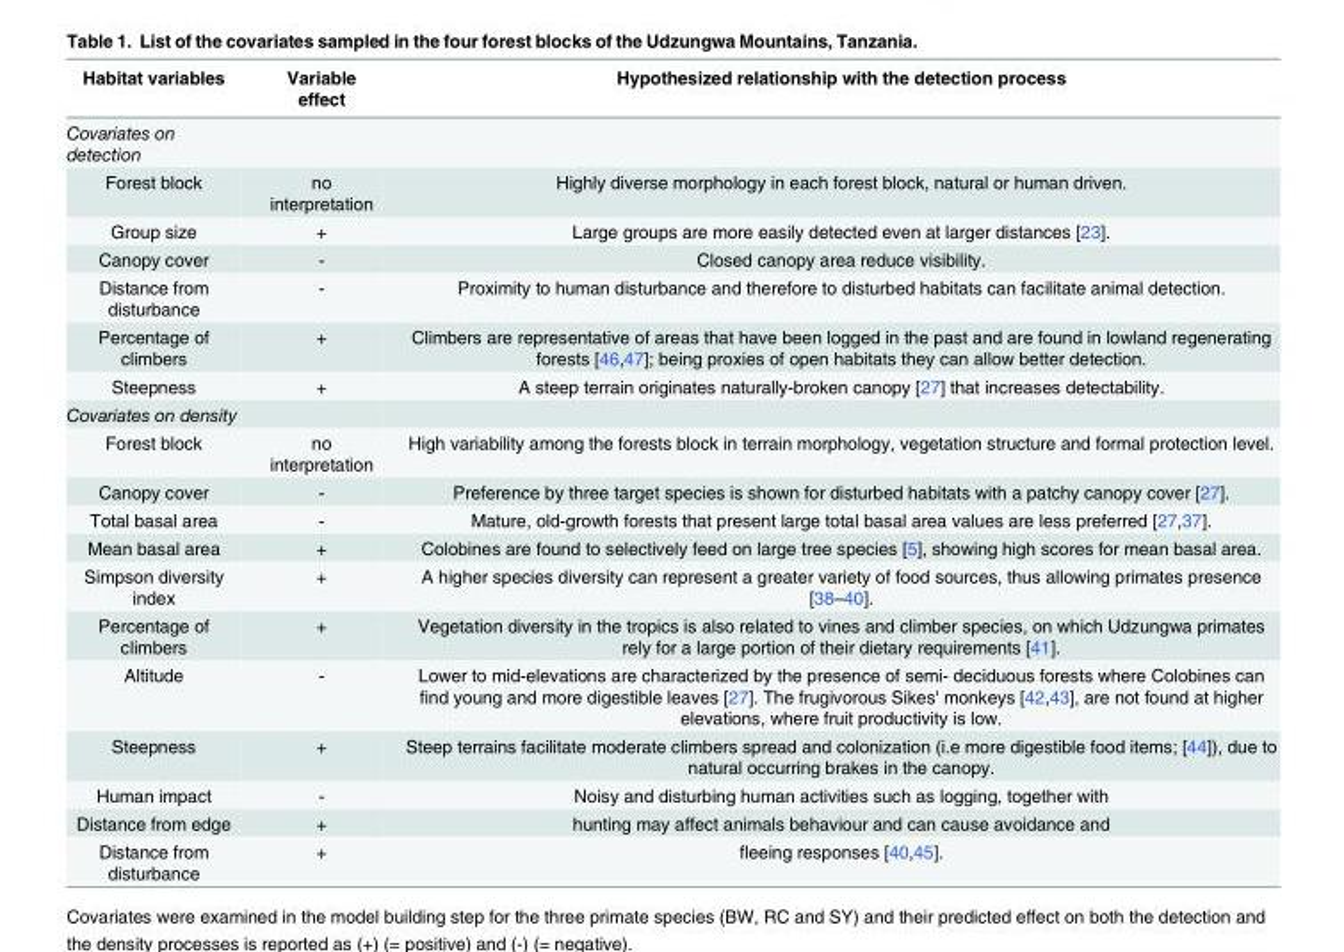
<table><thead><tr><td>Habitat variables</td><td>Variable effect</td><td>Hypothesized relationship with the detection process</td></tr></thead><tbody><tr><td colspan="3">Covariates on detection</td></tr><tr><td>Forest block</td><td>no interpretation</td><td>Highly diverse morphology in each forest block, natural or human driven.</td></tr><tr><td>Group size</td><td>+</td><td>Large groups are more easily detected even at larger distances [23].</td></tr><tr><td>Canopy cover</td><td>-</td><td>Closed canopy area reduce visibility.</td></tr><tr><td>Distance from disturbance</td><td>-</td><td>Proximity to human disturbance and therefore to disturbed habitats can facilitate animal detection.</td></tr><tr><td>Percentage of climbers</td><td>+</td><td>Climbers are representative of areas that have been logged in the past and are found in lowland regenerating forests [46,47]; being proxies of open habitats they can allow better detection.</td></tr><tr><td>Steepness</td><td>+</td><td>A steep terrain originates naturally-broken canopy [27] that increases detectability.</td></tr><tr><td colspan="3">Covariates on density</td></tr><tr><td>Forest block</td><td>no interpretation</td><td>High variability among the forests block in terrain morphology, vegetation structure and formal protection level.</td></tr><tr><td>Canopy cover</td><td>-</td><td>Preference by three target species is shown for disturbed habitats with a patchy canopy cover [27].</td></tr><tr><td>Total basal area</td><td>-</td><td>Mature, old-growth forests that present large total basal area values are less preferred [27,37].</td></tr><tr><td>Mean basal area</td><td>+</td><td>Colobines are found to selectively feed on large tree species [5], showing high scores for mean basal area.</td></tr><tr><td>Simpson diversity index</td><td>+</td><td>A higher species diversity can represent a greater variety of food sources, thus allowing primates presence [38–40].</td></tr><tr><td>Percentage of climbers</td><td>+</td><td>Vegetation diversity in the tropics is also related to vines and climber species, on which Udzungwa primates rely for a large portion of their dietary requirements [41].</td></tr><tr><td>Altitude</td><td>-</td><td>Lower to mid-elevations are characterized by the presence of semi- deciduous forests where Colobines can find young and more digestible leaves [27]. The frugivorous Sikes&#x27; monkeys [42,43], are not found at higher elevations, where fruit productivity is low.</td></tr><tr><td>Steepness</td><td>+</td><td>Steep terrains facilitate moderate climbers spread and colonization (i.e more digestible food items; [44]), due to natural occurring brakes in the canopy.</td></tr><tr><td>Human impact</td><td>-</td><td>Noisy and disturbing human activities such as logging, together with</td></tr><tr><td>Distance from edge</td><td>+</td><td>hunting may affect animals behaviour and can cause avoidance and</td></tr><tr><td>Distance from disturbance</td><td>+</td><td>fleeing responses [40,45].</td></tr></tbody></table>